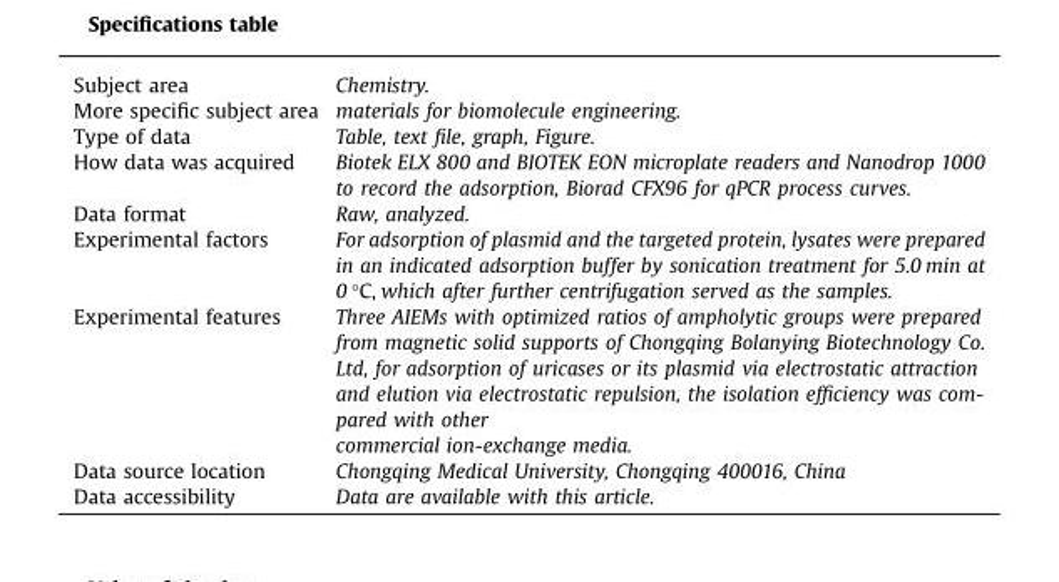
<table><tbody><tr><td>Subject area</td><td>Chemistry.</td></tr><tr><td>More specific subject area</td><td>materials for biomolecule engineering.</td></tr><tr><td>Type of data</td><td>Table, text file, graph, Figure.</td></tr><tr><td>How data was acquired</td><td>Biotek ELX 800 and BIOTEK EON microplate readers and Nanodrop 1000 to record the adsorption, Biorad CFX96 for qPCR process curves.</td></tr><tr><td>Data format</td><td>Raw, analyzed.</td></tr><tr><td>Experimental factors</td><td>For adsorption of plasmid and the targeted protein, lysates were prepared in an indicated adsorption buffer by sonication treatment for 5.0 min at 0 °C, which after further centrifugation served as the samples.</td></tr><tr><td>Experimental features</td><td>Three AIEMs with optimized ratios of ampholytic groups were prepared from magnetic solid supports of Chongqing Bolanying Biotechnology Co. Ltd, for adsorption of uricases or its plasmid via electrostatic attraction and elution via electrostatic repulsion, the isolation efficiency was com- pared with other commercial ion-exchange media.</td></tr><tr><td>Data source location</td><td>Chongqing Medical University, Chongqing 400016, China</td></tr><tr><td>Data accessibility</td><td>Data are available with this article.</td></tr></tbody></table>